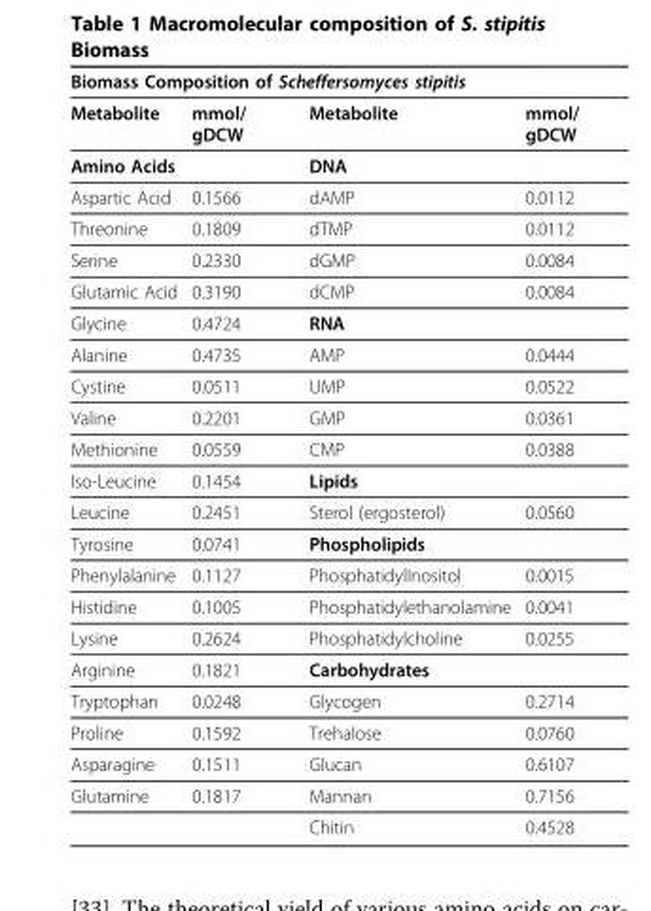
<table><thead><tr><td colspan="4">Biomass Composition of Scheffersomyces stipitis</td></tr><tr><td>Metabolite</td><td>mmol/ gDCW</td><td>Metabolite</td><td>mmol/ gDCW</td></tr></thead><tbody><tr><td>Amino Acids</td><td></td><td>DNA</td><td></td></tr><tr><td>Aspartic Acid</td><td>0.1566</td><td>dAMP</td><td>0.0112</td></tr><tr><td>Threonine</td><td>0.1809</td><td>dTMP</td><td>0.0112</td></tr><tr><td>Serine</td><td>0.2330</td><td>dGMP</td><td>0.0084</td></tr><tr><td>Glutamic Acid</td><td>0.3190</td><td>dCMP</td><td>0.0084</td></tr><tr><td>Glycine</td><td>0.4724</td><td>RNA</td><td></td></tr><tr><td>Alanine</td><td>0.4735</td><td>AMP</td><td>0.0444</td></tr><tr><td>Cystine</td><td>0.0511</td><td>UMP</td><td>0.0522</td></tr><tr><td>Valine</td><td>0.2201</td><td>GMP</td><td>0.0361</td></tr><tr><td>Methionine</td><td>0.0559</td><td>CMP</td><td>0.0388</td></tr><tr><td>Iso-Leucine</td><td>0.1454</td><td>Lipids</td><td></td></tr><tr><td>Leucine</td><td>0.2451</td><td>Sterol (ergosterol)</td><td>0.0560</td></tr><tr><td>Tyrosine</td><td>0.0741</td><td>Phospholipids</td><td></td></tr><tr><td>Phenylalanine</td><td>0.1127</td><td>PhosphatidylInositol</td><td>0.0015</td></tr><tr><td>Histidine</td><td>0.1005</td><td>Phosphatidylethanolamine</td><td>0.0041</td></tr><tr><td>Lysine</td><td>0.2624</td><td>Phosphatidylcholine</td><td>0.0255</td></tr><tr><td>Arginine</td><td>0.1821</td><td>Carbohydrates</td><td></td></tr><tr><td>Tryptophan</td><td>0.0248</td><td>Glycogen</td><td>0.2714</td></tr><tr><td>Proline</td><td>0.1592</td><td>Trehalose</td><td>0.0760</td></tr><tr><td>Asparagine</td><td>0.1511</td><td>Glucan</td><td>0.6107</td></tr><tr><td rowspan="2">Glutamine</td><td>0.1817</td><td>Mannan</td><td>0.7156</td></tr><tr><td></td><td>Chitin</td><td>0.4528</td></tr></tbody></table>